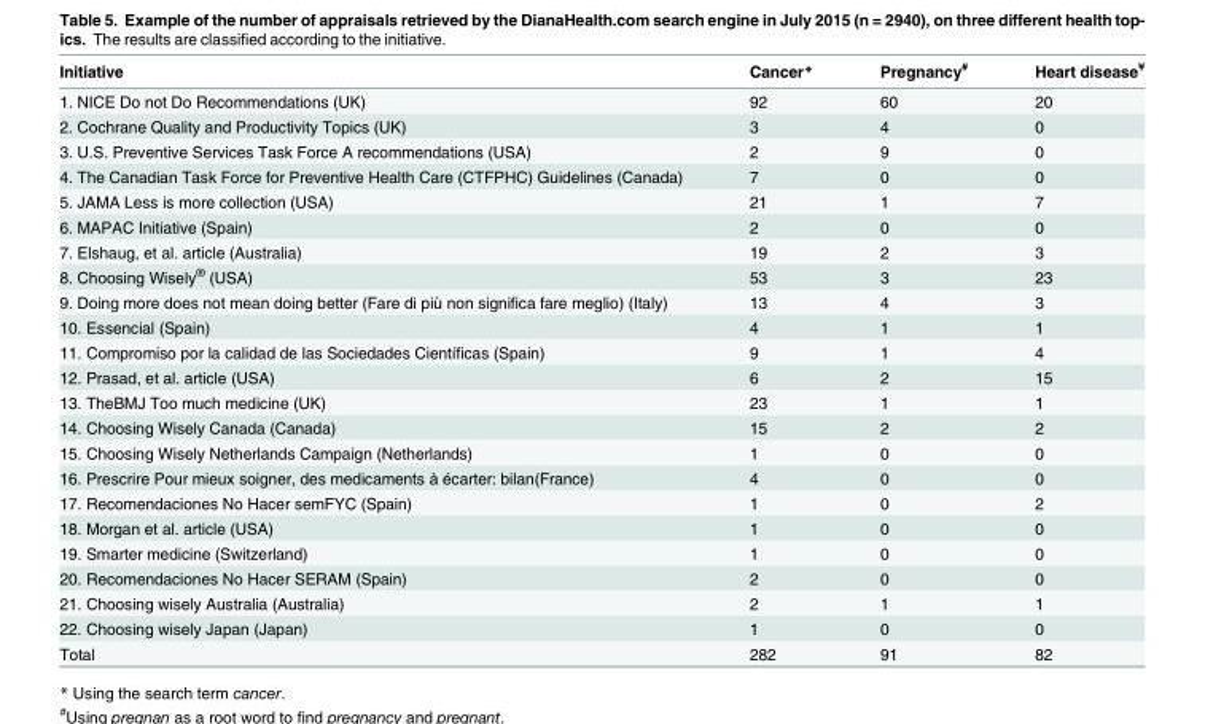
<table><thead><tr><td>Initiative</td><td>Cancer*</td><td>Pregnancy<sup>#</sup></td><td>Heart disease<sup>¥</sup></td></tr></thead><tbody><tr><td>1. NICE Do not Do Recommendations (UK)</td><td>92</td><td>60</td><td>20</td></tr><tr><td>2. Cochrane Quality and Productivity Topics (UK)</td><td>3</td><td>4</td><td>0</td></tr><tr><td>3. U.S. Preventive Services Task Force A recommendations (USA)</td><td>2</td><td>9</td><td>0</td></tr><tr><td>4. The Canadian Task Force for Preventive Health Care (CTFPHC) Guidelines (Canada)</td><td>7</td><td>0</td><td>0</td></tr><tr><td>5. JAMA Less is more collection (USA)</td><td>21</td><td>1</td><td>7</td></tr><tr><td>6. MAPAC Initiative (Spain)</td><td>2</td><td>0</td><td>0</td></tr><tr><td>7. Elshaug, et al. article (Australia)</td><td>19</td><td>2</td><td>3</td></tr><tr><td>8. Choosing Wisely<sup>®</sup> (USA)</td><td>53</td><td>3</td><td>23</td></tr><tr><td>9. Doing more does not mean doing better (Fare di più non significa fare meglio) (Italy)</td><td>13</td><td>4</td><td>3</td></tr><tr><td>10. Essencial (Spain)</td><td>4</td><td>1</td><td>1</td></tr><tr><td>11. Compromiso por la calidad de las Sociedades Científicas (Spain)</td><td>9</td><td>1</td><td>4</td></tr><tr><td>12. Prasad, et al. article (USA)</td><td>6</td><td>2</td><td>15</td></tr><tr><td>13. TheBMJ Too much medicine (UK)</td><td>23</td><td>1</td><td>1</td></tr><tr><td>14. Choosing Wisely Canada (Canada)</td><td>15</td><td>2</td><td>2</td></tr><tr><td>15. Choosing Wisely Netherlands Campaign (Netherlands)</td><td>1</td><td>0</td><td>0</td></tr><tr><td>16. Prescrire Pour mieux soigner, des medicaments à écarter: bilan(France)</td><td>4</td><td>0</td><td>0</td></tr><tr><td>17. Recomendaciones No Hacer semFYC (Spain)</td><td>1</td><td>0</td><td>2</td></tr><tr><td>18. Morgan et al. article (USA)</td><td>1</td><td>0</td><td>0</td></tr><tr><td>19. Smarter medicine (Switzerland)</td><td>1</td><td>0</td><td>0</td></tr><tr><td>20. Recomendaciones No Hacer SERAM (Spain)</td><td>2</td><td>0</td><td>0</td></tr><tr><td>21. Choosing wisely Australia (Australia)</td><td>2</td><td>1</td><td>1</td></tr><tr><td>22. Choosing wisely Japan (Japan)</td><td>1</td><td>0</td><td>0</td></tr><tr><td>Total</td><td>282</td><td>91</td><td>82</td></tr></tbody></table>